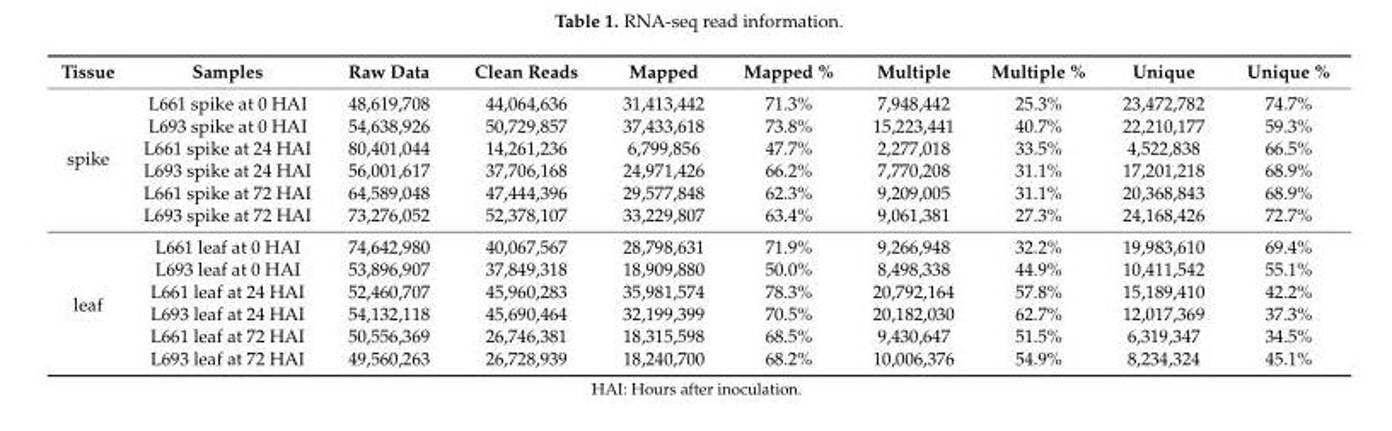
<table><thead><tr><td>Tissue</td><td>Samples</td><td>Raw Data</td><td>Clean Reads</td><td>Mapped</td><td>Mapped %</td><td>Multiple</td><td>Multiple %</td><td>Unique</td><td>Unique %</td></tr></thead><tbody><tr><td rowspan="6">spike</td><td>L661 spike at 0 HAI</td><td>48,619,708</td><td>44,064,636</td><td>31,413,442</td><td>71.3%</td><td>7,948,442</td><td>25.3%</td><td>23,472,782</td><td>74.7%</td></tr><tr><td>L693 spike at 0 HAI</td><td>54,638,926</td><td>50,729,857</td><td>37,433,618</td><td>73.8%</td><td>15,223,441</td><td>40.7%</td><td>22,210,177</td><td>59.3%</td></tr><tr><td>L661 spike at 24 HAI</td><td>80,401,044</td><td>14,261,236</td><td>6,799,856</td><td>47.7%</td><td>2,277,018</td><td>33.5%</td><td>4,522,838</td><td>66.5%</td></tr><tr><td>L693 spike at 24 HAI</td><td>56,001,617</td><td>37,706,168</td><td>24,971,426</td><td>66.2%</td><td>7,770,208</td><td>31.1%</td><td>17,201,218</td><td>68.9%</td></tr><tr><td>L661 spike at 72 HAI</td><td>64,589,048</td><td>47,444,396</td><td>29,577,848</td><td>62.3%</td><td>9,209,005</td><td>31.1%</td><td>20,368,843</td><td>68.9%</td></tr><tr><td>L693 spike at 72 HAI</td><td>73,276,052</td><td>52,378,107</td><td>33,229,807</td><td>63.4%</td><td>9,061,381</td><td>27.3%</td><td>24,168,426</td><td>72.7%</td></tr><tr><td rowspan="6">leaf</td><td>L661 leaf at 0 HAI</td><td>74,642,980</td><td>40,067,567</td><td>28,798,631</td><td>71.9%</td><td>9,266,948</td><td>32.2%</td><td>19,983,610</td><td>69.4%</td></tr><tr><td>L693 leaf at 0 HAI</td><td>53,896,907</td><td>37,849,318</td><td>18,909,880</td><td>50.0%</td><td>8,498,338</td><td>44.9%</td><td>10,411,542</td><td>55.1%</td></tr><tr><td>L661 leaf at 24 HAI</td><td>52,460,707</td><td>45,960,283</td><td>35,981,574</td><td>78.3%</td><td>20,792,164</td><td>57.8%</td><td>15,189,410</td><td>42.2%</td></tr><tr><td>L693 leaf at 24 HAI</td><td>54,132,118</td><td>45,690,464</td><td>32,199,399</td><td>70.5%</td><td>20,182,030</td><td>62.7%</td><td>12,017,369</td><td>37.3%</td></tr><tr><td>L661 leaf at 72 HAI</td><td>50,556,369</td><td>26,746,381</td><td>18,315,598</td><td>68.5%</td><td>9,430,647</td><td>51.5%</td><td>6,319,347</td><td>34.5%</td></tr><tr><td>L693 leaf at 72 HAI</td><td>49,560,263</td><td>26,728,939</td><td>18,240,700</td><td>68.2%</td><td>10,006,376</td><td>54.9%</td><td>8,234,324</td><td>45.1%</td></tr></tbody></table>